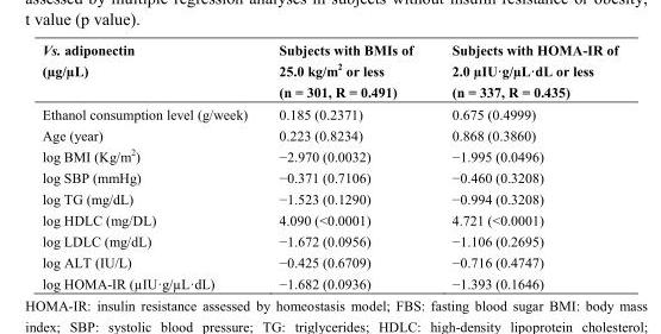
<table><thead><tr><td>Vs. adiponectin (µg/µL)</td><td>Subjects with BMIs of 25.0 kg/m<sup>2</sup> or less (n = 301, R = 0.491)</td><td>Subjects with HOMA-IR of 2.0 µIU·g/µL·dL or less (n = 337, R = 0.435)</td></tr></thead><tbody><tr><td>Ethanol consumption level (g/week)</td><td>0.185 (0.2371)</td><td>0.675 (0.4999)</td></tr><tr><td>Age (year)</td><td>0.223 (0.8234)</td><td>0.868 (0.3860)</td></tr><tr><td>log BMI (Kg/m<sup>2</sup>)</td><td>−2.970 (0.0032)</td><td>−1.995 (0.0496)</td></tr><tr><td>log SBP (mmHg)</td><td>−0.371 (0.7106)</td><td>−0.460 (0.3208)</td></tr><tr><td>log TG (mg/dL)</td><td>−1.523 (0.1290)</td><td>−0.994 (0.3208)</td></tr><tr><td>log HDLC (mg/DL)</td><td>4.090 (&lt;0.0001)</td><td>4.721 (&lt;0.0001)</td></tr><tr><td>log LDLC (mg/dL)</td><td>−1.672 (0.0956)</td><td>−1.106 (0.2695)</td></tr><tr><td>log ALT (IU/L)</td><td>−0.425 (0.6709)</td><td>−0.716 (0.4747)</td></tr><tr><td>log HOMA-IR (µIU·g/µL·dL)</td><td>−1.682 (0.0936)</td><td>−1.393 (0.1646)</td></tr></tbody></table>